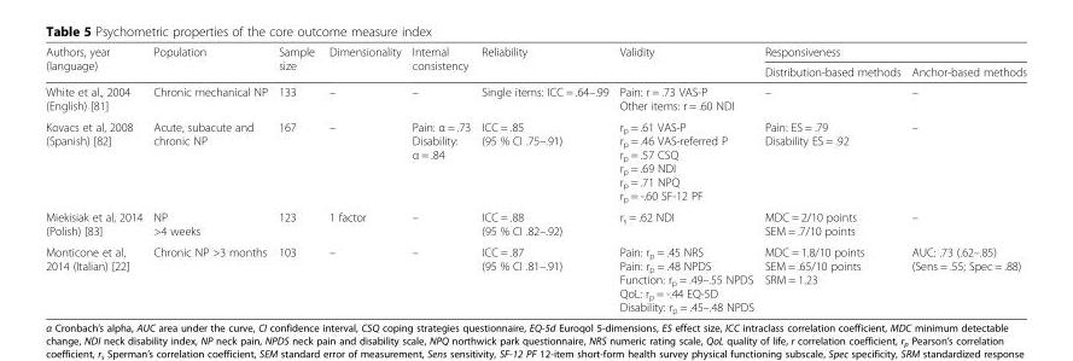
<table><thead><tr><td rowspan="2">Authors, year (language)</td><td rowspan="2">Population</td><td rowspan="2">Sample size</td><td rowspan="2">Dimensionality</td><td rowspan="2">Internal consistency</td><td rowspan="2">Reliability</td><td rowspan="2">Validity</td><td colspan="2">Responsiveness</td></tr><tr><td>Distribution-based methods</td><td>Anchor-based methods</td></tr></thead><tbody><tr><td>White et al., 2004 (English) [81]</td><td>Chronic mechanical NP</td><td>133</td><td>–</td><td>–</td><td>Single items: ICC = .64–.99</td><td>Pain: r = .73 VAS-P Other items: r = .60 NDI</td><td>–</td><td>–</td></tr><tr><td>Kovacs et al, 2008 (Spanish) [82]</td><td>Acute, subacute and chronic NP</td><td>167</td><td>–</td><td>Pain: α = .73 Disability: α = .84</td><td>ICC = .85 (95 % CI .75–.91)</td><td>r<sub>p</sub> = .61 VAS-P r<sub>p</sub> = .46 VAS-referred P r<sub>p</sub> = .57 CSQ r<sub>p</sub> = .69 NDI r<sub>p</sub> = .71 NPQ r<sub>p</sub> = -.60 SF-12 PF</td><td>Pain: ES = .79 Disability ES = .92</td><td>–</td></tr><tr><td>Miekisiak et al, 2014 (Polish) [83]</td><td>NP &gt;4 weeks</td><td>123</td><td>1 factor</td><td>–</td><td>ICC = .88 (95 % CI .82–.92)</td><td>r<sub>s</sub> = .62 NDI</td><td>MDC = 2/10 points SEM = .7/10 points</td><td>–</td></tr><tr><td>Monticone et al, 2014 (Italian) [22]</td><td>Chronic NP &gt;3 months</td><td>103</td><td>–</td><td>–</td><td>ICC = .87 (95 % CI .81–.91)</td><td>Pain: r<sub>p</sub> = .45 NRS Pain: r<sub>p</sub> = .48 NPDS Function: r<sub>p</sub> = .49–.55 NPDS QoL: r<sub>p</sub> = -.44 EQ-5D Disability: r<sub>p</sub> = .45–.48 NPDS</td><td>MDC = 1.8/10 points SEM = .65/10 points SRM = 1.23</td><td>AUC: .73 (.62–.85) (Sens = .55; Spec = .88)</td></tr></tbody></table>